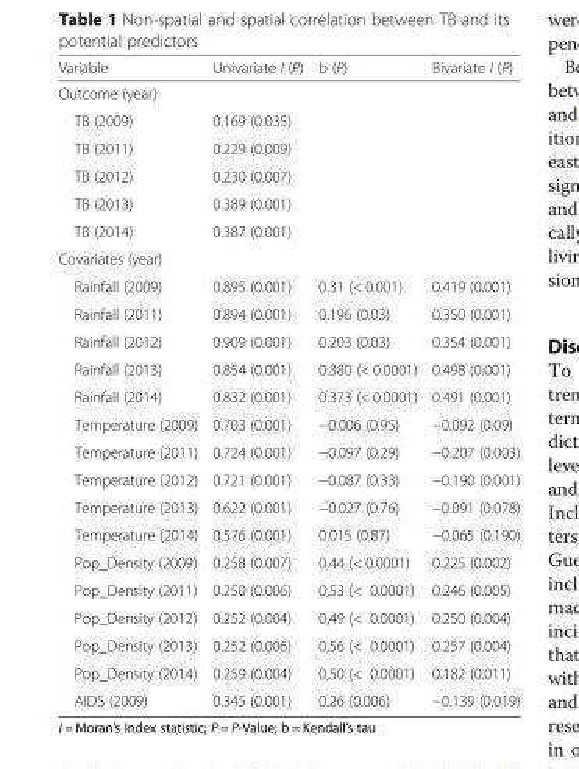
<table><thead><tr><td>Variable</td><td>Univariate I (P)</td><td>b (P)</td><td>Bivariate I (P)</td></tr></thead><tbody><tr><td colspan="4">Outcome (year)</td></tr><tr><td>TB (2009)</td><td>0.169 (0.035)</td><td></td><td></td></tr><tr><td>TB (2011)</td><td>0.229 (0.009)</td><td></td><td></td></tr><tr><td>TB (2012)</td><td>0.230 (0.007)</td><td></td><td></td></tr><tr><td>TB (2013)</td><td>0.389 (0.001)</td><td></td><td></td></tr><tr><td>TB (2014)</td><td>0.387 (0.001)</td><td></td><td></td></tr><tr><td colspan="4">Covariates (year)</td></tr><tr><td>Rainfall (2009)</td><td>0.895 (0.001)</td><td>0.31 (&lt; 0.001)</td><td>0.419 (0.001)</td></tr><tr><td>Rainfall (2011)</td><td>0.894 (0.001)</td><td>0.196 (0.03)</td><td>0.350 (0.001)</td></tr><tr><td>Rainfall (2012)</td><td>0.909 (0.001)</td><td>0.203 (0.03)</td><td>0.354 (0.001)</td></tr><tr><td>Rainfall (2013)</td><td>0.854 (0.001)</td><td>0.380 (&lt; 0.0001)</td><td>0.498 (0.001)</td></tr><tr><td>Rainfall (2014)</td><td>0.832 (0.001)</td><td>0.373 (&lt; 0.0001)</td><td>0.491 (0.001)</td></tr><tr><td>Temperature (2009)</td><td>0.703 (0.001)</td><td>−0.006 (0.95)</td><td>−0.092 (0.09)</td></tr><tr><td>Temperature (2011)</td><td>0.724 (0.001)</td><td>−0.097 (0.29)</td><td>−0.207 (0.003)</td></tr><tr><td>Temperature (2012)</td><td>0.721 (0.001)</td><td>−0.087 (0.33)</td><td>−0.190 (0.001)</td></tr><tr><td>Temperature (2013)</td><td>0.622 (0.001)</td><td>−0.027 (0.76)</td><td>−0.091 (0.078)</td></tr><tr><td>Temperature (2014)</td><td>0.576 (0.001)</td><td>0.015 (0.87)</td><td>−0.065 (0.190)</td></tr><tr><td>Pop_Density (2009)</td><td>0.258 (0.007)</td><td>0.44 (&lt; 0.0001)</td><td>0.225 (0.002)</td></tr><tr><td>Pop_Density (2011)</td><td>0.250 (0.006)</td><td>0,53 (&lt; 0.0001)</td><td>0.246 (0.005)</td></tr><tr><td>Pop_Density (2012)</td><td>0.252 (0.004)</td><td>0,49 (&lt; 0.0001)</td><td>0.250 (0.004)</td></tr><tr><td>Pop_Density (2013)</td><td>0.252 (0.006)</td><td>0,56 (&lt; 0.0001)</td><td>0.257 (0.004)</td></tr><tr><td>Pop_Density (2014)</td><td>0.259 (0.004)</td><td>0,50 (&lt; 0.0001)</td><td>0.182 (0.011)</td></tr><tr><td>AIDS (2009)</td><td>0.345 (0.001)</td><td>0.26 (0.006)</td><td>−0.139 (0.019)</td></tr></tbody></table>